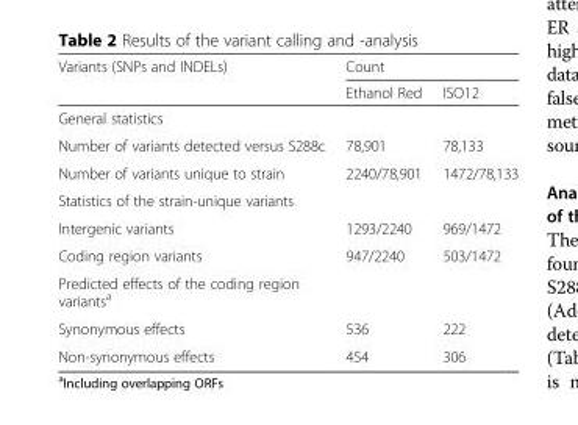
<table><thead><tr><td rowspan="2">Variants (SNPs and INDELs)</td><td colspan="2">Count</td></tr><tr><td>Ethanol Red</td><td>ISO12</td></tr></thead><tbody><tr><td colspan="3">General statistics</td></tr><tr><td>Number of variants detected versus S288c</td><td>78,901</td><td>78,133</td></tr><tr><td>Number of variants unique to strain</td><td>2240/78,901</td><td>1472/78,133</td></tr><tr><td colspan="3">Statistics of the strain-unique variants</td></tr><tr><td>Intergenic variants</td><td>1293/2240</td><td>969/1472</td></tr><tr><td>Coding region variants</td><td>947/2240</td><td>503/1472</td></tr><tr><td colspan="3">Predicted effects of the coding region variants<sup>a</sup></td></tr><tr><td>Synonymous effects</td><td>536</td><td>222</td></tr><tr><td>Non-synonymous effects</td><td>454</td><td>306</td></tr></tbody></table>